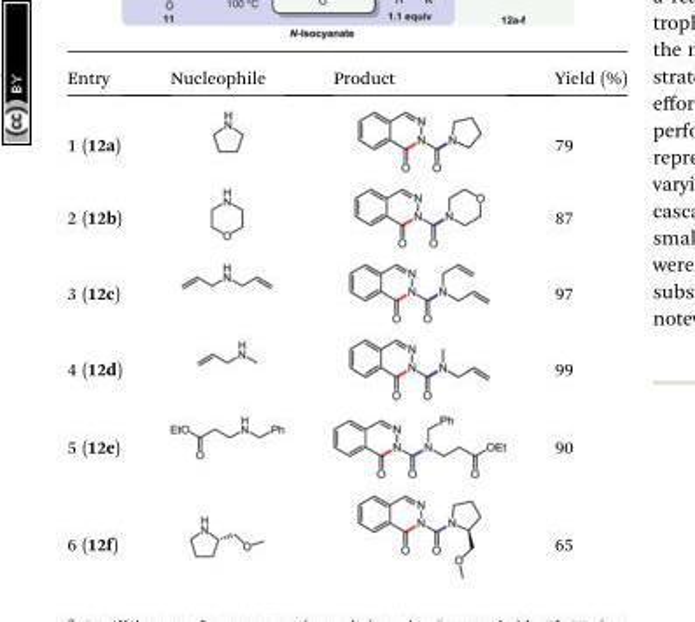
<table><thead><tr><td>Entry</td><td>Nucleophile</td><td>Product</td><td>Yield (%)</td></tr></thead><tbody><tr><td>1 (12a)</td><td></td><td></td><td>79</td></tr><tr><td>2 (12b)</td><td></td><td></td><td>87</td></tr><tr><td>3 (12c)</td><td></td><td></td><td>97</td></tr><tr><td>4 (12d)</td><td></td><td></td><td>99</td></tr><tr><td>5 (12e)</td><td></td><td></td><td>90</td></tr><tr><td>6 (12f)</td><td></td><td></td><td>65</td></tr></tbody></table>